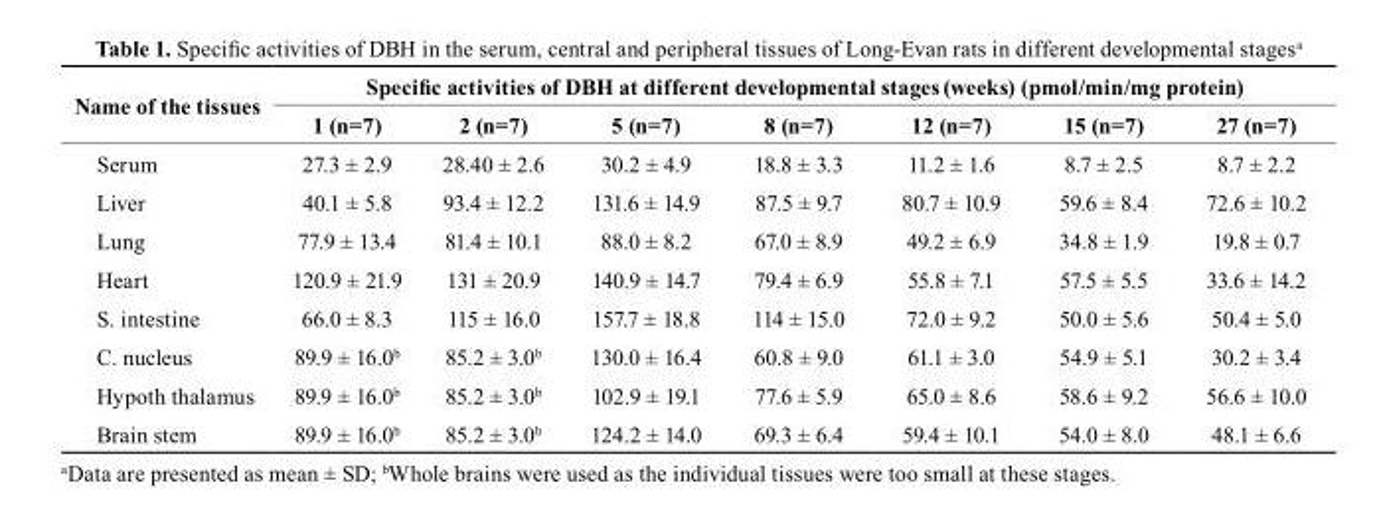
<table><thead><tr><td rowspan="2">Name of the tissues</td><td colspan="7">Specific activities of DBH at different developmental stages (weeks) (pmol/min/mg protein)</td></tr><tr><td>1 (n=7)</td><td>2 (n=7)</td><td>5 (n=7)</td><td>8 (n=7)</td><td>12 (n=7)</td><td>15 (n=7)</td><td>27 (n=7)</td></tr></thead><tbody><tr><td>Serum</td><td>27.3 ± 2.9</td><td>28.40 ± 2.6</td><td>30.2 ± 4.9</td><td>18.8 ± 3.3</td><td>11.2 ± 1.6</td><td>8.7 ± 2.5</td><td>8.7 ± 2.2</td></tr><tr><td>Liver</td><td>40.1 ± 5.8</td><td>93.4 ± 12.2</td><td>131.6 ± 14.9</td><td>87.5 ± 9.7</td><td>80.7 ± 10.9</td><td>59.6 ± 8.4</td><td>72.6 ± 10.2</td></tr><tr><td>Lung</td><td>77.9 ± 13.4</td><td>81.4 ± 10.1</td><td>88.0 ± 8.2</td><td>67.0 ± 8.9</td><td>49.2 ± 6.9</td><td>34.8 ± 1.9</td><td>19.8 ± 0.7</td></tr><tr><td>Heart</td><td>120.9 ± 21.9</td><td>131 ± 20.9</td><td>140.9 ± 14.7</td><td>79.4 ± 6.9</td><td>55.8 ± 7.1</td><td>57.5 ± 5.5</td><td>33.6 ± 14.2</td></tr><tr><td>S. intestine</td><td>66.0 ± 8.3</td><td>115 ± 16.0</td><td>157.7 ± 18.8</td><td>114 ± 15.0</td><td>72.0 ± 9.2</td><td>50.0 ± 5.6</td><td>50.4 ± 5.0</td></tr><tr><td>C. nucleus</td><td>89.9 ± 16.0<sup>b</sup></td><td>85.2 ± 3.0<sup>b</sup></td><td>130.0 ± 16.4</td><td>60.8 ± 9.0</td><td>61.1 ± 3.0</td><td>54.9 ± 5.1</td><td>30.2 ± 3.4</td></tr><tr><td>Hypoth thalamus</td><td>89.9 ± 16.0<sup>b</sup></td><td>85.2 ± 3.0<sup>b</sup></td><td>102.9 ± 19.1</td><td>77.6 ± 5.9</td><td>65.0 ± 8.6</td><td>58.6 ± 9.2</td><td>56.6 ± 10.0</td></tr><tr><td>Brain stem</td><td>89.9 ± 16.0<sup>b</sup></td><td>85.2 ± 3.0<sup>b</sup></td><td>124.2 ± 14.0</td><td>69.3 ± 6.4</td><td>59.4 ± 10.1</td><td>54.0 ± 8.0</td><td>48.1 ± 6.6</td></tr></tbody></table>